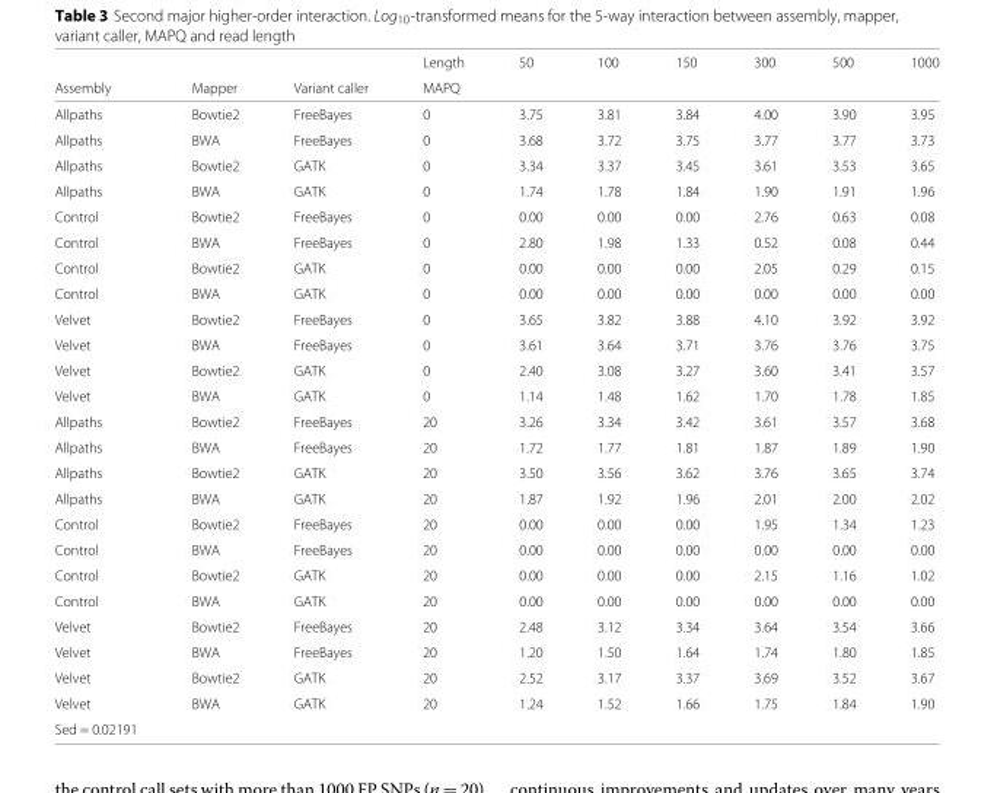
<table><thead><tr><td rowspan="2">Assembly</td><td rowspan="2">Mapper</td><td rowspan="2">Variant caller</td><td rowspan="2">Length MAPQ</td><td rowspan="2">50</td><td rowspan="2">100</td><td rowspan="2">150</td><td rowspan="2">300</td><td rowspan="2">500</td><td rowspan="2">1000</td></tr><tr></tr></thead><tbody><tr><td>Allpaths</td><td>Bowtie2</td><td>FreeBayes</td><td>0</td><td>3.75</td><td>3.81</td><td>3.84</td><td>4.00</td><td>3.90</td><td>3.95</td></tr><tr><td>Allpaths</td><td>BWA</td><td>FreeBayes</td><td>0</td><td>3.68</td><td>3.72</td><td>3.75</td><td>3.77</td><td>3.77</td><td>3.73</td></tr><tr><td>Allpaths</td><td>Bowtie2</td><td>GATK</td><td>0</td><td>3.34</td><td>3.37</td><td>3.45</td><td>3.61</td><td>3.53</td><td>3.65</td></tr><tr><td>Allpaths</td><td>BWA</td><td>GATK</td><td>0</td><td>1.74</td><td>1.78</td><td>1.84</td><td>1.90</td><td>1.91</td><td>1.96</td></tr><tr><td>Control</td><td>Bowtie2</td><td>FreeBayes</td><td>0</td><td>0.00</td><td>0.00</td><td>0.00</td><td>2.76</td><td>0.63</td><td>0.08</td></tr><tr><td>Control</td><td>BWA</td><td>FreeBayes</td><td>0</td><td>2.80</td><td>1.98</td><td>1.33</td><td>0.52</td><td>0.08</td><td>0.44</td></tr><tr><td>Control</td><td>Bowtie2</td><td>GATK</td><td>0</td><td>0.00</td><td>0.00</td><td>0.00</td><td>2.05</td><td>0.29</td><td>0.15</td></tr><tr><td>Control</td><td>BWA</td><td>GATK</td><td>0</td><td>0.00</td><td>0.00</td><td>0.00</td><td>0.00</td><td>0.00</td><td>0.00</td></tr><tr><td>Velvet</td><td>Bowtie2</td><td>FreeBayes</td><td>0</td><td>3.65</td><td>3.82</td><td>3.88</td><td>4.10</td><td>3.92</td><td>3.92</td></tr><tr><td>Velvet</td><td>BWA</td><td>FreeBayes</td><td>0</td><td>3.61</td><td>3.64</td><td>3.71</td><td>3.76</td><td>3.76</td><td>3.75</td></tr><tr><td>Velvet</td><td>Bowtie2</td><td>GATK</td><td>0</td><td>2.40</td><td>3.08</td><td>3.27</td><td>3.60</td><td>3.41</td><td>3.57</td></tr><tr><td>Velvet</td><td>BWA</td><td>GATK</td><td>0</td><td>1.14</td><td>1.48</td><td>1.62</td><td>1.70</td><td>1.78</td><td>1.85</td></tr><tr><td>Allpaths</td><td>Bowtie2</td><td>FreeBayes</td><td>20</td><td>3.26</td><td>3.34</td><td>3.42</td><td>3.61</td><td>3.57</td><td>3.68</td></tr><tr><td>Allpaths</td><td>BWA</td><td>FreeBayes</td><td>20</td><td>1.72</td><td>1.77</td><td>1.81</td><td>1.87</td><td>1.89</td><td>1.90</td></tr><tr><td>Allpaths</td><td>Bowtie2</td><td>GATK</td><td>20</td><td>3.50</td><td>3.56</td><td>3.62</td><td>3.76</td><td>3.65</td><td>3.74</td></tr><tr><td>Allpaths</td><td>BWA</td><td>GATK</td><td>20</td><td>1.87</td><td>1.92</td><td>1.96</td><td>2.01</td><td>2.00</td><td>2.02</td></tr><tr><td>Control</td><td>Bowtie2</td><td>FreeBayes</td><td>20</td><td>0.00</td><td>0.00</td><td>0.00</td><td>1.95</td><td>1.34</td><td>1.23</td></tr><tr><td>Control</td><td>BWA</td><td>FreeBayes</td><td>20</td><td>0.00</td><td>0.00</td><td>0.00</td><td>0.00</td><td>0.00</td><td>0.00</td></tr><tr><td>Control</td><td>Bowtie2</td><td>GATK</td><td>20</td><td>0.00</td><td>0.00</td><td>0.00</td><td>2.15</td><td>1.16</td><td>1.02</td></tr><tr><td>Control</td><td>BWA</td><td>GATK</td><td>20</td><td>0.00</td><td>0.00</td><td>0.00</td><td>0.00</td><td>0.00</td><td>0.00</td></tr><tr><td>Velvet</td><td>Bowtie2</td><td>FreeBayes</td><td>20</td><td>2.48</td><td>3.12</td><td>3.34</td><td>3.64</td><td>3.54</td><td>3.66</td></tr><tr><td>Velvet</td><td>BWA</td><td>FreeBayes</td><td>20</td><td>1.20</td><td>1.50</td><td>1.64</td><td>1.74</td><td>1.80</td><td>1.85</td></tr><tr><td>Velvet</td><td>Bowtie2</td><td>GATK</td><td>20</td><td>2.52</td><td>3.17</td><td>3.37</td><td>3.69</td><td>3.52</td><td>3.67</td></tr><tr><td>Velvet</td><td>BWA</td><td>GATK</td><td>20</td><td>1.24</td><td>1.52</td><td>1.66</td><td>1.75</td><td>1.84</td><td>1.90</td></tr><tr><td>Sed = 0.02191</td><td></td><td></td><td></td><td></td><td></td><td></td><td></td><td></td><td></td></tr></tbody></table>